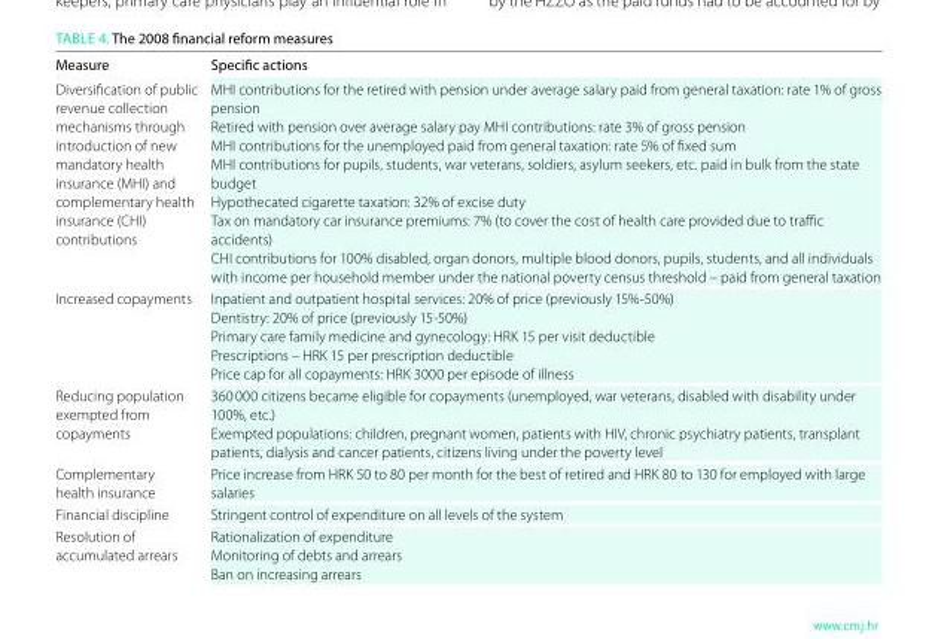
<table><thead><tr><td>Measure</td><td>Specific actions</td></tr></thead><tbody><tr><td>Diversification of public revenue collection mechanisms through introduction of new mandatory health insurance (MHI) and complementary health insurance (CHI) contributions</td><td>MHI contributions for the retired with pension under average salary paid from general taxation: rate 1% of gross pension Retired with pension over average salary pay MHI contributions: rate 3% of gross pension MHI contributions for the unemployed paid from general taxation: rate 5% of fixed sum MHI contributions for pupils, students, war veterans, soldiers, asylum seekers, etc. paid in bulk from the state budget Hypothecated cigarette taxation: 32% of excise duty Tax on mandatory car insurance premiums: 7% (to cover the cost of health care provided due to traffic accidents) CHI contributions for 100% disabled, organ donors, multiple blood donors, pupils, students, and all individuals with income per household member under the national poverty census threshold – paid from general taxation</td></tr><tr><td>Increased copayments</td><td>Inpatient and outpatient hospital services: 20% of price (previously 15%-50%) Dentistry: 20% of price (previously 15-50%) Primary care family medicine and gynecology: HRK 15 per visit deductible Prescriptions – HRK 15 per prescription deductible Price cap for all copayments: HRK 3000 per episode of illness</td></tr><tr><td>Reducing population exempted from copayments</td><td>360 000 citizens became eligible for copayments (unemployed, war veterans, disabled with disability under 100%, etc.) Exempted populations: children, pregnant women, patients with HIV, chronic psychiatry patients, transplant patients, dialysis and cancer patients, citizens living under the poverty level</td></tr><tr><td>Complementary health insurance</td><td>Price increase from HRK 50 to 80 per month for the best of retired and HRK 80 to 130 for employed with large salaries</td></tr><tr><td>Financial discipline</td><td>Stringent control of expenditure on all levels of the system</td></tr><tr><td>Resolution of accumulated arrears</td><td>Rationalization of expenditure Monitoring of debts and arrears Ban on increasing arrears</td></tr></tbody></table>